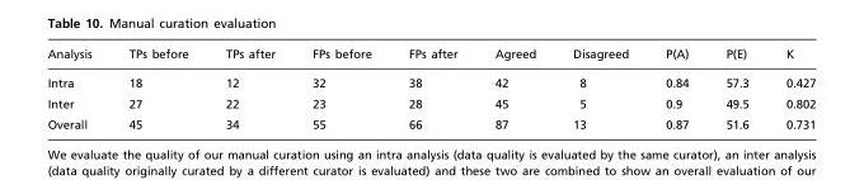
<table><thead><tr><td>Analysis</td><td>TPs before</td><td>TPs after</td><td>FPs before</td><td>FPs after</td><td>Agreed</td><td>Disagreed</td><td>P(A)</td><td>P(E)</td><td>K</td></tr></thead><tbody><tr><td>Intra</td><td>18</td><td>12</td><td>32</td><td>38</td><td>42</td><td>8</td><td>0.84</td><td>57.3</td><td>0.427</td></tr><tr><td>Inter</td><td>27</td><td>22</td><td>23</td><td>28</td><td>45</td><td>5</td><td>0.9</td><td>49.5</td><td>0.802</td></tr><tr><td>Overall</td><td>45</td><td>34</td><td>55</td><td>66</td><td>87</td><td>13</td><td>0.87</td><td>51.6</td><td>0.731</td></tr></tbody></table>